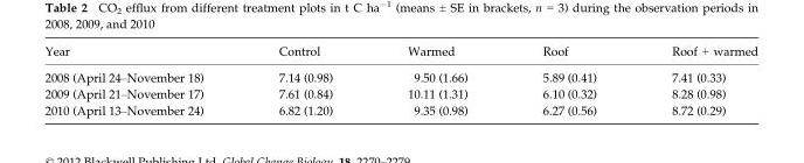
<table><thead><tr><td>Year</td><td>Control</td><td>Warmed</td><td>Roof</td><td>Roof + warmed</td></tr></thead><tbody><tr><td>2008 (April 24–November 18)</td><td>7.14 (0.98)</td><td>9.50 (1.66)</td><td>5.89 (0.41)</td><td>7.41 (0.33)</td></tr><tr><td>2009 (April 21–November 17)</td><td>7.61 (0.84)</td><td>10.11 (1.31)</td><td>6.10 (0.32)</td><td>8.28 (0.98)</td></tr><tr><td>2010 (April 13–November 24)</td><td>6.82 (1.20)</td><td>9.35 (0.98)</td><td>6.27 (0.56)</td><td>8.72 (0.29)</td></tr></tbody></table>